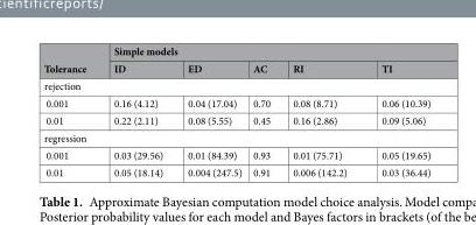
<table><thead><tr><td rowspan="2">Tolerance</td><td colspan="5">Simple models</td></tr><tr><td>ID</td><td>ED</td><td>AC</td><td>RI</td><td>TI</td></tr></thead><tbody><tr><td colspan="6">rejection</td></tr><tr><td>0.001</td><td>0.16 (4.12)</td><td>0.04 (17.04)</td><td>0.70</td><td>0.08 (8.71)</td><td>0.06 (10.39)</td></tr><tr><td>0.01</td><td>0.22 (2.11)</td><td>0.08 (5.55)</td><td>0.45</td><td>0.16 (2.86)</td><td>0.09 (5.06)</td></tr><tr><td colspan="6">regression</td></tr><tr><td>0.001</td><td>0.03 (29.56)</td><td>0.01 (84.39)</td><td>0.93</td><td>0.01 (75.71)</td><td>0.05 (19.65)</td></tr><tr><td>0.01</td><td>0.05 (18.14)</td><td>0.004 (247.5)</td><td>0.91</td><td>0.006 (142.2)</td><td>0.03 (36.44)</td></tr></tbody></table>